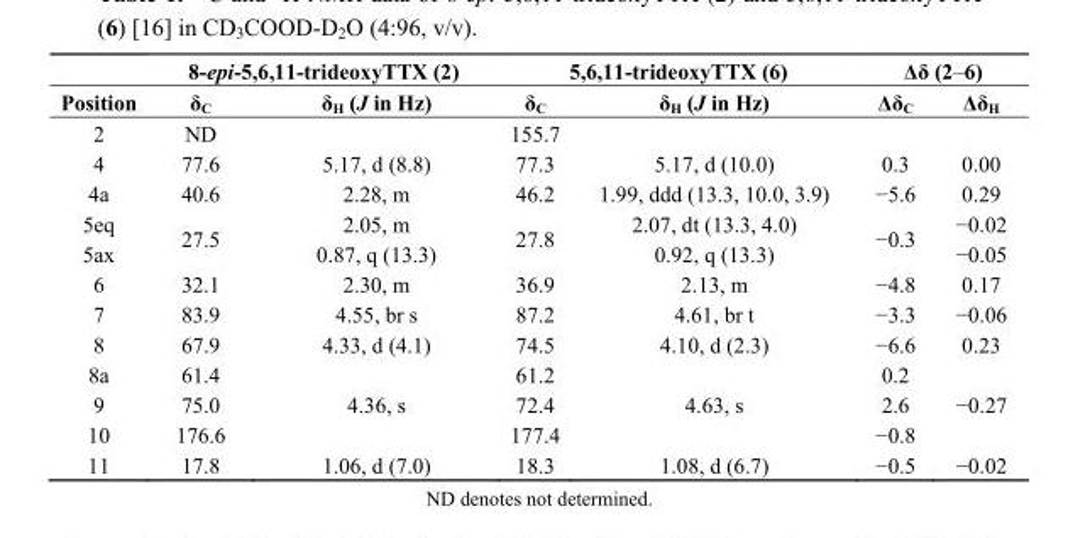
<table><thead><tr><td rowspan="2">Position</td><td colspan="2">8-epi-5,6,11-trideoxyTTX (2)</td><td colspan="2">5,6,11-trideoxyTTX (6)</td><td colspan="2">Δδ (2–6)</td></tr><tr><td>δ<sub>C</sub></td><td>δ<sub>H</sub> (J in Hz)</td><td>δ<sub>C</sub></td><td>δ<sub>H</sub> (J in Hz)</td><td>Δδ<sub>C</sub></td><td>Δδ<sub>H</sub></td></tr></thead><tbody><tr><td>2</td><td>ND</td><td></td><td>155.7</td><td></td><td></td><td></td></tr><tr><td>4</td><td>77.6</td><td>5.17, d (8.8)</td><td>77.3</td><td>5.17, d (10.0)</td><td>0.3</td><td>0.00</td></tr><tr><td>4a</td><td>40.6</td><td>2.28, m</td><td>46.2</td><td>1.99, ddd (13.3, 10.0, 3.9)</td><td>−5.6</td><td>0.29</td></tr><tr><td>5eq</td><td rowspan="2">27.5</td><td>2.05, m</td><td rowspan="2">27.8</td><td>2.07, dt (13.3, 4.0)</td><td rowspan="2">−0.3</td><td>−0.02</td></tr><tr><td>5ax</td><td>0.87, q (13.3)</td><td>0.92, q (13.3)</td><td>−0.05</td></tr><tr><td>6</td><td>32.1</td><td>2.30, m</td><td>36.9</td><td>2.13, m</td><td>−4.8</td><td>0.17</td></tr><tr><td>7</td><td>83.9</td><td>4.55, br s</td><td>87.2</td><td>4.61, br t</td><td>−3.3</td><td>−0.06</td></tr><tr><td>8</td><td>67.9</td><td>4.33, d (4.1)</td><td>74.5</td><td>4.10, d (2.3)</td><td>−6.6</td><td>0.23</td></tr><tr><td>8a</td><td>61.4</td><td></td><td>61.2</td><td></td><td>0.2</td><td></td></tr><tr><td>9</td><td>75.0</td><td>4.36, s</td><td>72.4</td><td>4.63, s</td><td>2.6</td><td>−0.27</td></tr><tr><td>10</td><td>176.6</td><td></td><td>177.4</td><td></td><td>−0.8</td><td></td></tr><tr><td>11</td><td>17.8</td><td>1.06, d (7.0)</td><td>18.3</td><td>1.08, d (6.7)</td><td>−0.5</td><td>−0.02</td></tr></tbody></table>